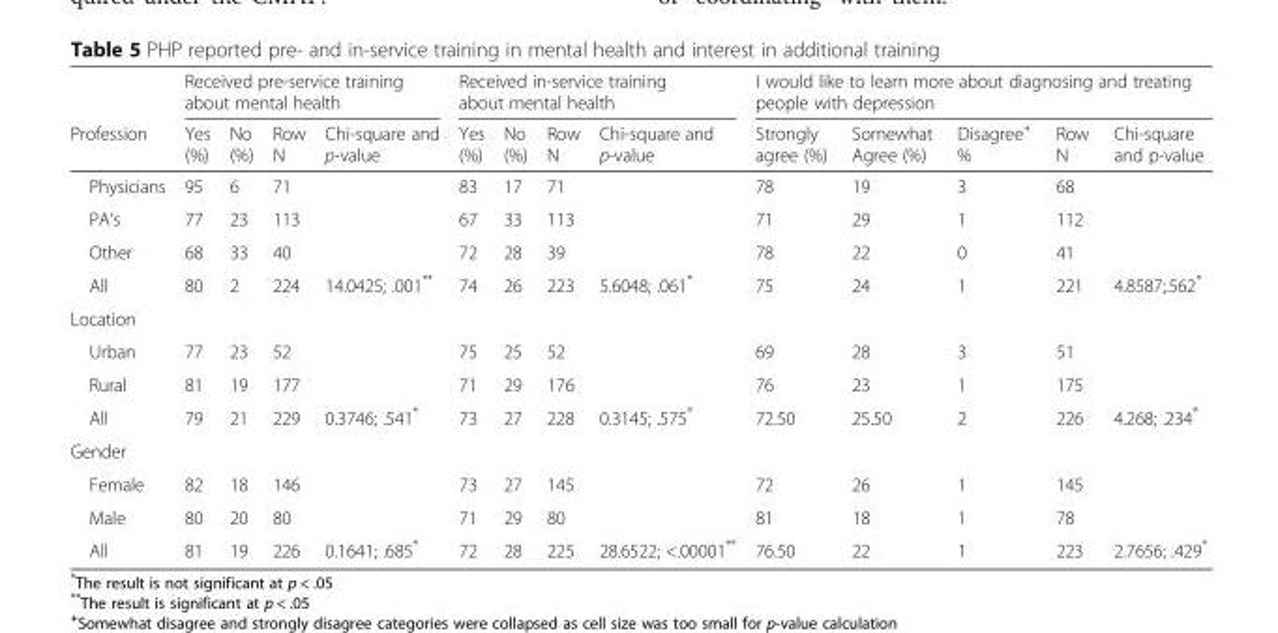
<table><thead><tr><td rowspan="2">Profession</td><td colspan="4">Received pre-service training about mental health</td><td colspan="4">Received in-service training about mental health</td><td colspan="5">I would like to learn more about diagnosing and treating people with depression</td></tr><tr><td>Yes (%)</td><td>No (%)</td><td>Row N</td><td>Chi-square and p-value</td><td>Yes (%)</td><td>No (%)</td><td>Row N</td><td>Chi-square and p-value</td><td>Strongly agree (%)</td><td>Somewhat Agree (%)</td><td>Disagree<sup>+</sup> %</td><td>Row N</td><td>Chi-square and p-value</td></tr></thead><tbody><tr><td>Physicians</td><td>95</td><td>6</td><td>71</td><td></td><td>83</td><td>17</td><td>71</td><td></td><td>78</td><td>19</td><td>3</td><td>68</td><td></td></tr><tr><td>PA’s</td><td>77</td><td>23</td><td>113</td><td></td><td>67</td><td>33</td><td>113</td><td></td><td>71</td><td>29</td><td>1</td><td>112</td><td></td></tr><tr><td>Other</td><td>68</td><td>33</td><td>40</td><td></td><td>72</td><td>28</td><td>39</td><td></td><td>78</td><td>22</td><td>0</td><td>41</td><td></td></tr><tr><td>All</td><td>80</td><td>2</td><td>224</td><td>14.0425; .001**</td><td>74</td><td>26</td><td>223</td><td>5.6048; .061*</td><td>75</td><td>24</td><td>1</td><td>221</td><td>4.8587;.562*</td></tr><tr><td colspan="14">Location</td></tr><tr><td>Urban</td><td>77</td><td>23</td><td>52</td><td></td><td>75</td><td>25</td><td>52</td><td></td><td>69</td><td>28</td><td>3</td><td>51</td><td></td></tr><tr><td>Rural</td><td>81</td><td>19</td><td>177</td><td></td><td>71</td><td>29</td><td>176</td><td></td><td>76</td><td>23</td><td>1</td><td>175</td><td></td></tr><tr><td>All</td><td>79</td><td>21</td><td>229</td><td>0.3746; .541*</td><td>73</td><td>27</td><td>228</td><td>0.3145; .575*</td><td>72.50</td><td>25.50</td><td>2</td><td>226</td><td>4.268; .234*</td></tr><tr><td colspan="14">Gender</td></tr><tr><td>Female</td><td>82</td><td>18</td><td>146</td><td></td><td>73</td><td>27</td><td>145</td><td></td><td>72</td><td>26</td><td>1</td><td>145</td><td></td></tr><tr><td>Male</td><td>80</td><td>20</td><td>80</td><td></td><td>71</td><td>29</td><td>80</td><td></td><td>81</td><td>18</td><td>1</td><td>78</td><td></td></tr><tr><td>All</td><td>81</td><td>19</td><td>226</td><td>0.1641; .685*</td><td>72</td><td>28</td><td>225</td><td>28.6522; &lt;.00001**</td><td>76.50</td><td>22</td><td>1</td><td>223</td><td>2.7656; .429*</td></tr></tbody></table>